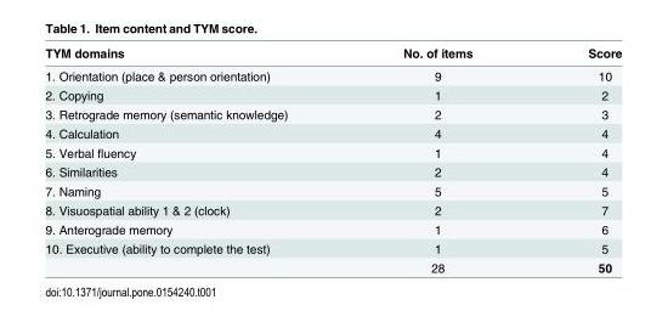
<table><thead><tr><td>TYM domains</td><td>No. of items</td><td>Score</td></tr></thead><tbody><tr><td>1. Orientation (place &amp; person orientation)</td><td>9</td><td>10</td></tr><tr><td>2. Copying</td><td>1</td><td>2</td></tr><tr><td>3. Retrograde memory (semantic knowledge)</td><td>2</td><td>3</td></tr><tr><td>4. Calculation</td><td>4</td><td>4</td></tr><tr><td>5. Verbal fluency</td><td>1</td><td>4</td></tr><tr><td>6. Similarities</td><td>2</td><td>4</td></tr><tr><td>7. Naming</td><td>5</td><td>5</td></tr><tr><td>8. Visuospatial ability 1 &amp; 2 (clock)</td><td>2</td><td>7</td></tr><tr><td>9. Anterograde memory</td><td>1</td><td>6</td></tr><tr><td rowspan="2">10. Executive (ability to complete the test)</td><td>1</td><td>5</td></tr><tr><td>28</td><td>50</td></tr></tbody></table>